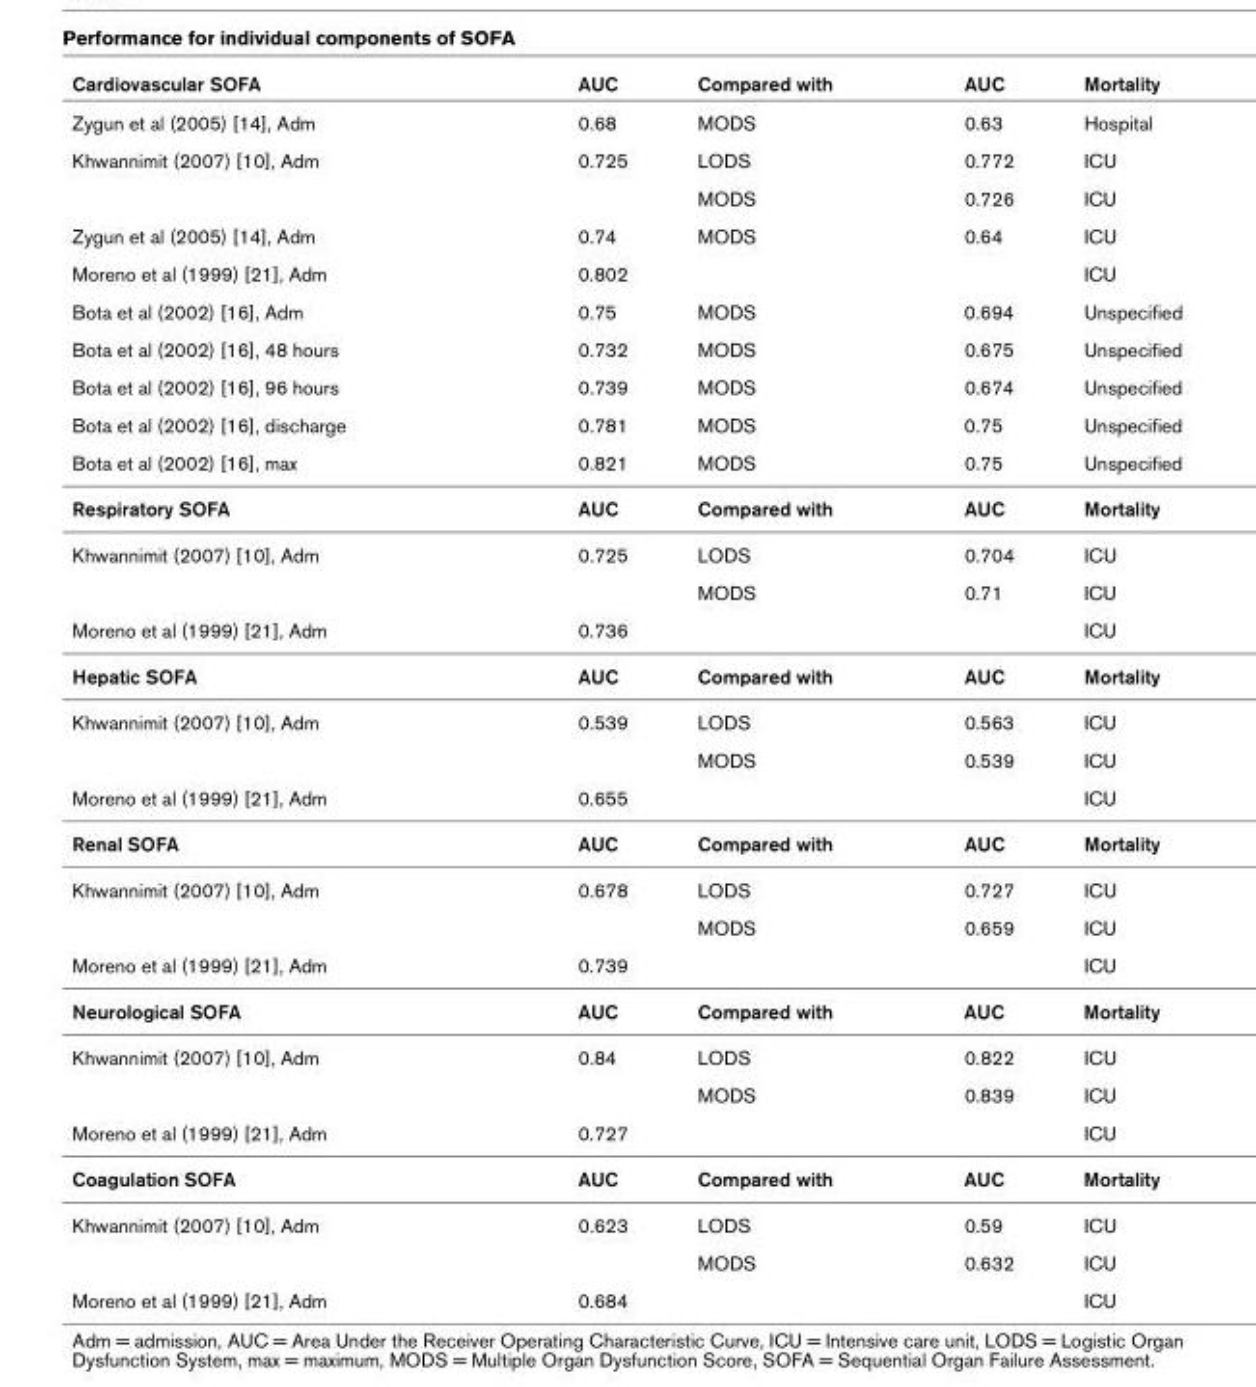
<table><thead><tr><td>Cardiovascular SOFA</td><td>AUC</td><td>Compared with</td><td>AUC</td><td>Mortality</td></tr></thead><tbody><tr><td>Zygun et al (2005) [14], Adm</td><td>0.68</td><td>MODS</td><td>0.63</td><td>Hospital</td></tr><tr><td rowspan="2">Khwannimit (2007) [10], Adm</td><td>0.725</td><td>LODS</td><td>0.772</td><td>ICU</td></tr><tr><td></td><td>MODS</td><td>0.726</td><td>ICU</td></tr><tr><td>Zygun et al (2005) [14], Adm</td><td>0.74</td><td>MODS</td><td>0.64</td><td>ICU</td></tr><tr><td>Moreno et al (1999) [21], Adm</td><td>0.802</td><td></td><td></td><td>ICU</td></tr><tr><td>Bota et al (2002) [16], Adm</td><td>0.75</td><td>MODS</td><td>0.694</td><td>Unspecified</td></tr><tr><td>Bota et al (2002) [16], 48 hours</td><td>0.732</td><td>MODS</td><td>0.675</td><td>Unspecified</td></tr><tr><td>Bota et al (2002) [16], 96 hours</td><td>0.739</td><td>MODS</td><td>0.674</td><td>Unspecified</td></tr><tr><td>Bota et al (2002) [16], discharge</td><td>0.781</td><td>MODS</td><td>0.75</td><td>Unspecified</td></tr><tr><td>Bota et al (2002) [16], max</td><td>0.821</td><td>MODS</td><td>0.75</td><td>Unspecified</td></tr><tr><td>Respiratory SOFA</td><td>AUC</td><td>Compared with</td><td>AUC</td><td>Mortality</td></tr><tr><td rowspan="2">Khwannimit (2007) [10], Adm</td><td>0.725</td><td>LODS</td><td>0.704</td><td>ICU</td></tr><tr><td></td><td>MODS</td><td>0.71</td><td>ICU</td></tr><tr><td>Moreno et al (1999) [21], Adm</td><td>0.736</td><td></td><td></td><td>ICU</td></tr><tr><td>Hepatic SOFA</td><td>AUC</td><td>Compared with</td><td>AUC</td><td>Mortality</td></tr><tr><td rowspan="2">Khwannimit (2007) [10], Adm</td><td>0.539</td><td>LODS</td><td>0.563</td><td>ICU</td></tr><tr><td></td><td>MODS</td><td>0.539</td><td>ICU</td></tr><tr><td>Moreno et al (1999) [21], Adm</td><td>0.655</td><td></td><td></td><td>ICU</td></tr><tr><td>Renal SOFA</td><td>AUC</td><td>Compared with</td><td>AUC</td><td>Mortality</td></tr><tr><td rowspan="2">Khwannimit (2007) [10], Adm</td><td>0.678</td><td>LODS</td><td>0.727</td><td>ICU</td></tr><tr><td></td><td>MODS</td><td>0.659</td><td>ICU</td></tr><tr><td>Moreno et al (1999) [21], Adm</td><td>0.739</td><td></td><td></td><td>ICU</td></tr><tr><td>Neurological SOFA</td><td>AUC</td><td>Compared with</td><td>AUC</td><td>Mortality</td></tr><tr><td rowspan="2">Khwannimit (2007) [10], Adm</td><td>0.84</td><td>LODS</td><td>0.822</td><td>ICU</td></tr><tr><td></td><td>MODS</td><td>0.839</td><td>ICU</td></tr><tr><td>Moreno et al (1999) [21], Adm</td><td>0.727</td><td></td><td></td><td>ICU</td></tr><tr><td>Coagulation SOFA</td><td>AUC</td><td>Compared with</td><td>AUC</td><td>Mortality</td></tr><tr><td rowspan="2">Khwannimit (2007) [10], Adm</td><td>0.623</td><td>LODS</td><td>0.59</td><td>ICU</td></tr><tr><td></td><td>MODS</td><td>0.632</td><td>ICU</td></tr><tr><td>Moreno et al (1999) [21], Adm</td><td>0.684</td><td></td><td></td><td>ICU</td></tr></tbody></table>